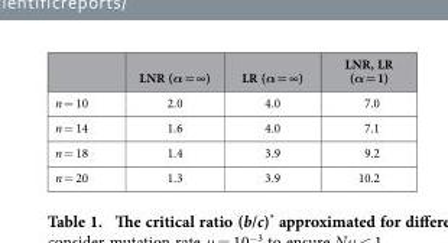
<table><thead><tr><td></td><td>LNR (α = ∞)</td><td>LR (α = ∞)</td><td>LNR, LR (α = 1)</td></tr></thead><tbody><tr><td>n = 10</td><td>2.0</td><td>4.0</td><td>7.0</td></tr><tr><td>n = 14</td><td>1.6</td><td>4.0</td><td>7.1</td></tr><tr><td>n = 18</td><td>1.4</td><td>3.9</td><td>9.2</td></tr><tr><td>n = 20</td><td>1.3</td><td>3.9</td><td>10.2</td></tr></tbody></table>